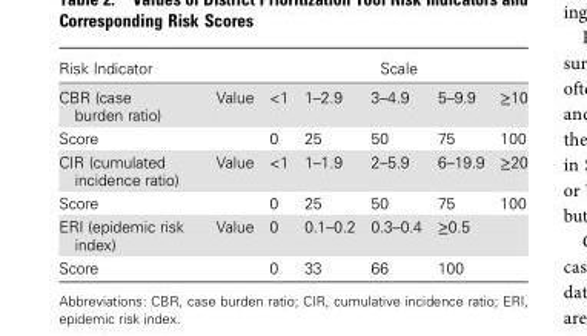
<table><thead><tr><td rowspan="2">Risk Indicator CBR (case burden ratio)</td><td rowspan="2">Value</td><td colspan="5">Scale</td></tr><tr><td>&lt;1</td><td>1–2.9</td><td>3–4.9</td><td>5–9.9</td><td>≥10</td></tr></thead><tbody><tr><td>Score</td><td></td><td>0</td><td>25</td><td>50</td><td>75</td><td>100</td></tr><tr><td>CIR (cumulated incidence ratio)</td><td>Value</td><td>&lt;1</td><td>1–1.9</td><td>2–5.9</td><td>6–19.9</td><td>≥20</td></tr><tr><td>Score</td><td></td><td>0</td><td>25</td><td>50</td><td>75</td><td>100</td></tr><tr><td>ERI (epidemic risk index)</td><td>Value</td><td>0</td><td>0.1–0.2</td><td>0.3–0.4</td><td>≥0.5</td><td></td></tr><tr><td>Score</td><td></td><td>0</td><td>33</td><td>66</td><td>100</td><td></td></tr></tbody></table>